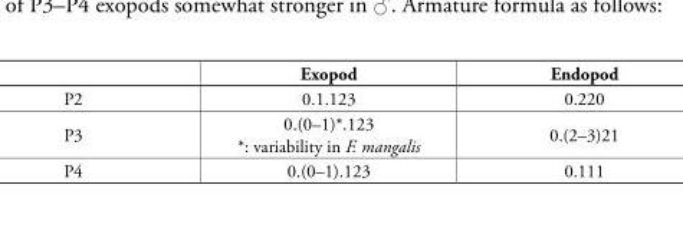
<table><thead><tr><td></td><td>Exopod</td><td>Endopod</td></tr></thead><tbody><tr><td>P2</td><td>0.1.123</td><td>0.220</td></tr><tr><td>P3</td><td>0.(0–1)*.123 *: variability in F. mangalis</td><td>0.(2–3)21</td></tr><tr><td>P4</td><td>0.(0–1).123</td><td>0.111</td></tr></tbody></table>